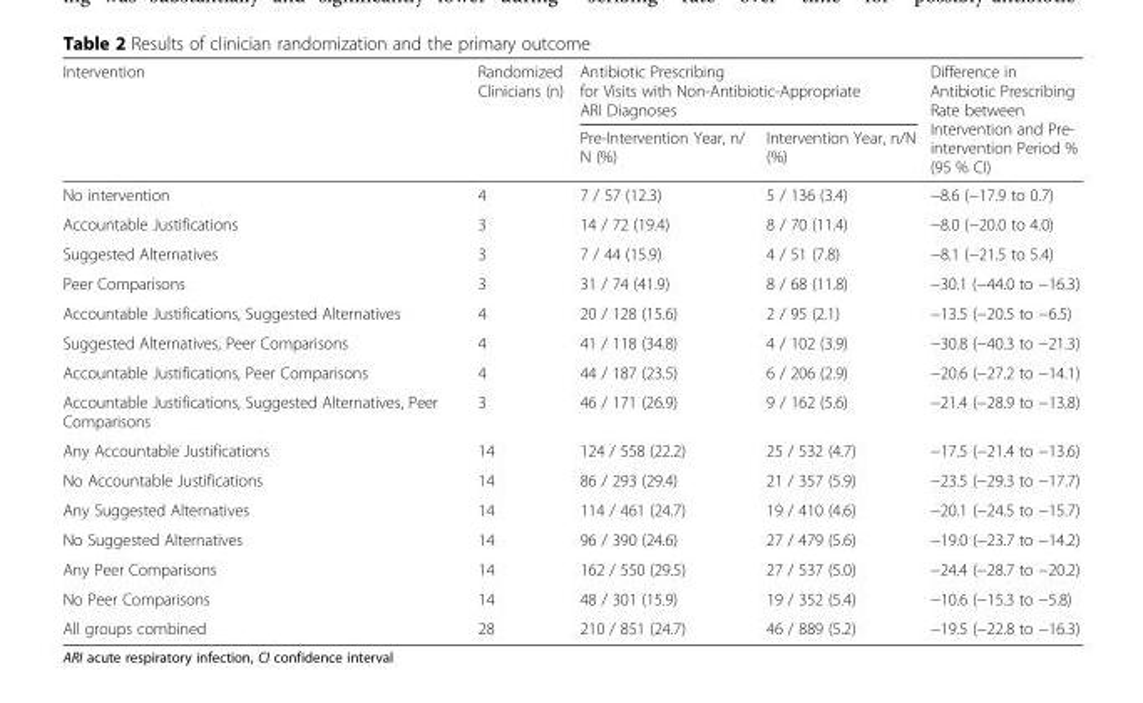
<table><thead><tr><td rowspan="2">Intervention</td><td rowspan="2">Randomized Clinicians (n)</td><td colspan="2">Antibiotic Prescribing for Visits with Non-Antibiotic-Appropriate ARI Diagnoses</td><td rowspan="2">Difference in Antibiotic Prescribing Rate between Intervention and Pre- intervention Period % (95 % CI)</td></tr><tr><td>Pre-Intervention Year, n/ N (%)</td><td>Intervention Year, n/N (%)</td></tr></thead><tbody><tr><td>No intervention</td><td>4</td><td>7 / 57 (12.3)</td><td>5 / 136 (3.4)</td><td>−8.6 (−17.9 to 0.7)</td></tr><tr><td>Accountable Justifications</td><td>3</td><td>14 / 72 (19.4)</td><td>8 / 70 (11.4)</td><td>−8.0 (−20.0 to 4.0)</td></tr><tr><td>Suggested Alternatives</td><td>3</td><td>7 / 44 (15.9)</td><td>4 / 51 (7.8)</td><td>−8.1 (−21.5 to 5.4)</td></tr><tr><td>Peer Comparisons</td><td>3</td><td>31 / 74 (41.9)</td><td>8 / 68 (11.8)</td><td>−30.1 (−44.0 to −16.3)</td></tr><tr><td>Accountable Justifications, Suggested Alternatives</td><td>4</td><td>20 / 128 (15.6)</td><td>2 / 95 (2.1)</td><td>−13.5 (−20.5 to −6.5)</td></tr><tr><td>Suggested Alternatives, Peer Comparisons</td><td>4</td><td>41 / 118 (34.8)</td><td>4 / 102 (3.9)</td><td>−30.8 (−40.3 to −21.3)</td></tr><tr><td>Accountable Justifications, Peer Comparisons</td><td>4</td><td>44 / 187 (23.5)</td><td>6 / 206 (2.9)</td><td>−20.6 (−27.2 to −14.1)</td></tr><tr><td>Accountable Justifications, Suggested Alternatives, Peer Comparisons</td><td>3</td><td>46 / 171 (26.9)</td><td>9 / 162 (5.6)</td><td>−21.4 (−28.9 to −13.8)</td></tr><tr><td>Any Accountable Justifications</td><td>14</td><td>124 / 558 (22.2)</td><td>25 / 532 (4.7)</td><td>−17.5 (−21.4 to −13.6)</td></tr><tr><td>No Accountable Justifications</td><td>14</td><td>86 / 293 (29.4)</td><td>21 / 357 (5.9)</td><td>−23.5 (−29.3 to −17.7)</td></tr><tr><td>Any Suggested Alternatives</td><td>14</td><td>114 / 461 (24.7)</td><td>19 / 410 (4.6)</td><td>−20.1 (−24.5 to −15.7)</td></tr><tr><td>No Suggested Alternatives</td><td>14</td><td>96 / 390 (24.6)</td><td>27 / 479 (5.6)</td><td>−19.0 (−23.7 to −14.2)</td></tr><tr><td>Any Peer Comparisons</td><td>14</td><td>162 / 550 (29.5)</td><td>27 / 537 (5.0)</td><td>−24.4 (−28.7 to −20.2)</td></tr><tr><td>No Peer Comparisons</td><td>14</td><td>48 / 301 (15.9)</td><td>19 / 352 (5.4)</td><td>−10.6 (−15.3 to −5.8)</td></tr><tr><td>All groups combined</td><td>28</td><td>210 / 851 (24.7)</td><td>46 / 889 (5.2)</td><td>−19.5 (−22.8 to −16.3)</td></tr></tbody></table>